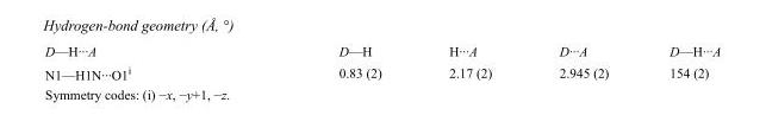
<table><tbody><tr><td>D—H···A</td><td>D—H</td><td>H···A</td><td>D···A</td><td>D—H···A</td></tr><tr><td>N1—H1N···O1<sup>i</sup></td><td>0.83 (2)</td><td>2.17 (2)</td><td>2.945 (2)</td><td>154 (2)</td></tr></tbody></table>